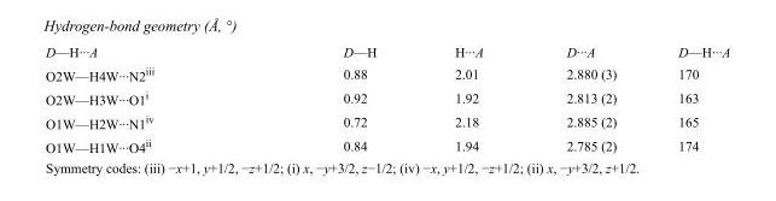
<table><tbody><tr><td>D—H···A</td><td>D—H</td><td>H···A</td><td>D···A</td><td>D—H···A</td></tr><tr><td>O2W—H4W···N2<sup>iii</sup></td><td>0.88</td><td>2.01</td><td>2.880 (3)</td><td>170</td></tr><tr><td>O2W—H3W···O1<sup>i</sup></td><td>0.92</td><td>1.92</td><td>2.813 (2)</td><td>163</td></tr><tr><td>O1W—H2W···N1<sup>iv</sup></td><td>0.72</td><td>2.18</td><td>2.885 (2)</td><td>165</td></tr><tr><td>O1W—H1W···O4<sup>ii</sup></td><td>0.84</td><td>1.94</td><td>2.785 (2)</td><td>174</td></tr></tbody></table>